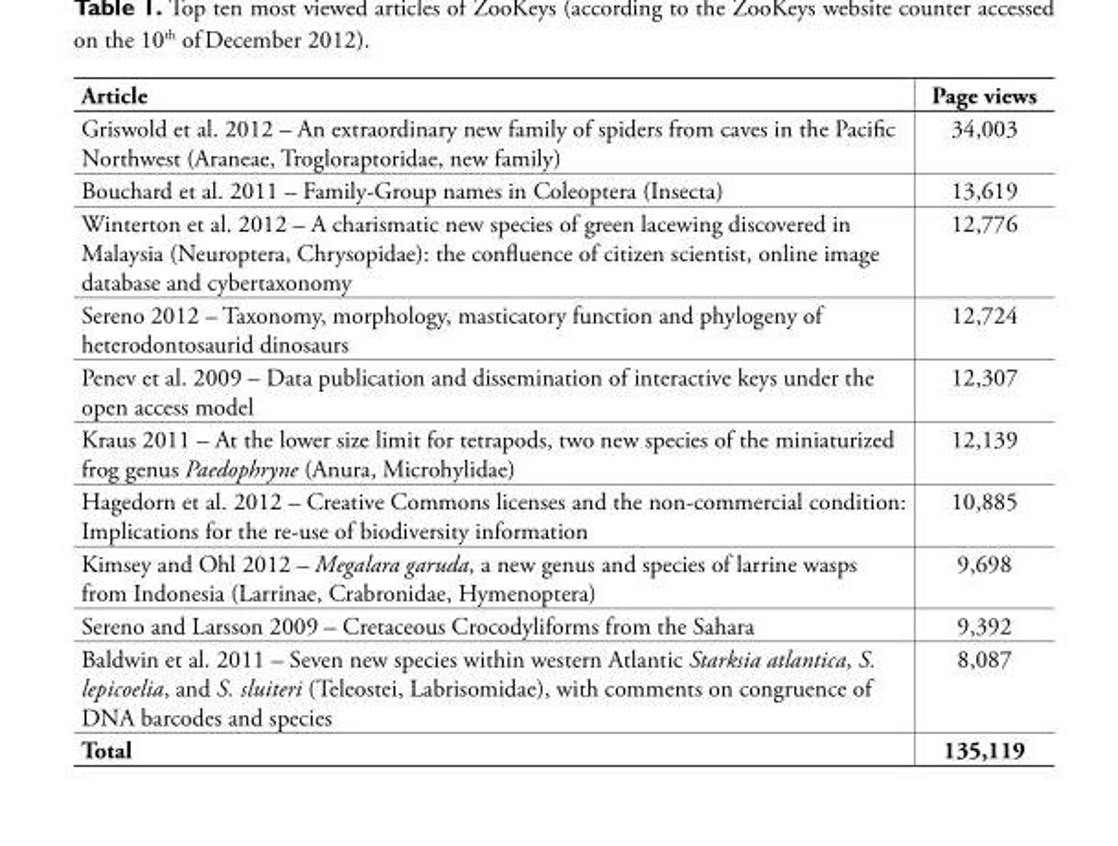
<table><thead><tr><td>Article</td><td>Page views</td></tr></thead><tbody><tr><td>Griswold et al. 2012 – An extraordinary new family of spiders from caves in the Pacific Northwest (Araneae, Trogloraptoridae, new family)</td><td>34,003</td></tr><tr><td>Bouchard et al. 2011 – Family-Group names in Coleoptera (Insecta)</td><td>13,619</td></tr><tr><td>Winterton et al. 2012 – A charismatic new species of green lacewing discovered in Malaysia (Neuroptera, Chrysopidae): the confluence of citizen scientist, online image database and cybertaxonomy</td><td>12,776</td></tr><tr><td>Sereno 2012 – Taxonomy, morphology, masticatory function and phylogeny of heterodontosaurid dinosaurs</td><td>12,724</td></tr><tr><td>Penev et al. 2009 – Data publication and dissemination of interactive keys under the open access model</td><td>12,307</td></tr><tr><td>Kraus 2011 – At the lower size limit for tetrapods, two new species of the miniaturized frog genus Paedophryne (Anura, Microhylidae)</td><td>12,139</td></tr><tr><td>Hagedorn et al. 2012 – Creative Commons licenses and the non-commercial condition: Implications for the re-use of biodiversity information</td><td>10,885</td></tr><tr><td>Kimsey and Ohl 2012 – Megalara garuda, a new genus and species of larrine wasps from Indonesia (Larrinae, Crabronidae, Hymenoptera)</td><td>9,698</td></tr><tr><td>Sereno and Larsson 2009 – Cretaceous Crocodyliforms from the Sahara</td><td>9,392</td></tr><tr><td>Baldwin et al. 2011 – Seven new species within western Atlantic Starksia atlantica, S. lepicoelia, and S. sluiteri (Teleostei, Labrisomidae), with comments on congruence of DNA barcodes and species</td><td>8,087</td></tr><tr><td>Total</td><td>135,119</td></tr></tbody></table>